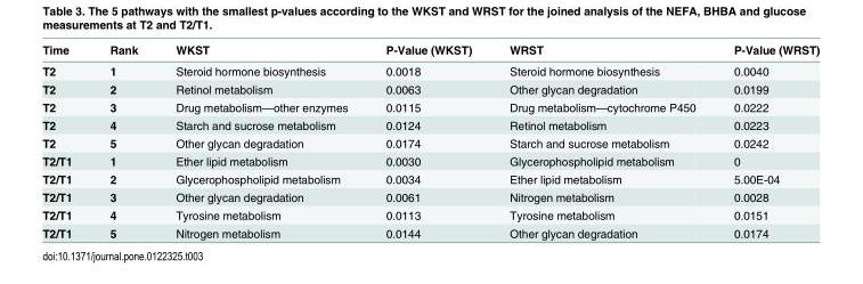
<table><thead><tr><td>Time</td><td>Rank</td><td>WKST</td><td>P-Value (WKST)</td><td>WRST</td><td>P-Value (WRST)</td></tr></thead><tbody><tr><td>T2</td><td>1</td><td>Steroid hormone biosynthesis</td><td>0.0018</td><td>Steroid hormone biosynthesis</td><td>0.0040</td></tr><tr><td>T2</td><td>2</td><td>Retinol metabolism</td><td>0.0063</td><td>Other glycan degradation</td><td>0.0199</td></tr><tr><td>T2</td><td>3</td><td>Drug metabolism—other enzymes</td><td>0.0115</td><td>Drug metabolism—cytochrome P450</td><td>0.0222</td></tr><tr><td>T2</td><td>4</td><td>Starch and sucrose metabolism</td><td>0.0124</td><td>Retinol metabolism</td><td>0.0223</td></tr><tr><td>T2</td><td>5</td><td>Other glycan degradation</td><td>0.0174</td><td>Starch and sucrose metabolism</td><td>0.0242</td></tr><tr><td>T2/T1</td><td>1</td><td>Ether lipid metabolism</td><td>0.0030</td><td>Glycerophospholipid metabolism</td><td>0</td></tr><tr><td>T2/T1</td><td>2</td><td>Glycerophospholipid metabolism</td><td>0.0034</td><td>Ether lipid metabolism</td><td>5.00E-04</td></tr><tr><td>T2/T1</td><td>3</td><td>Other glycan degradation</td><td>0.0061</td><td>Nitrogen metabolism</td><td>0.0028</td></tr><tr><td>T2/T1</td><td>4</td><td>Tyrosine metabolism</td><td>0.0113</td><td>Tyrosine metabolism</td><td>0.0151</td></tr><tr><td>T2/T1</td><td>5</td><td>Nitrogen metabolism</td><td>0.0144</td><td>Other glycan degradation</td><td>0.0174</td></tr></tbody></table>